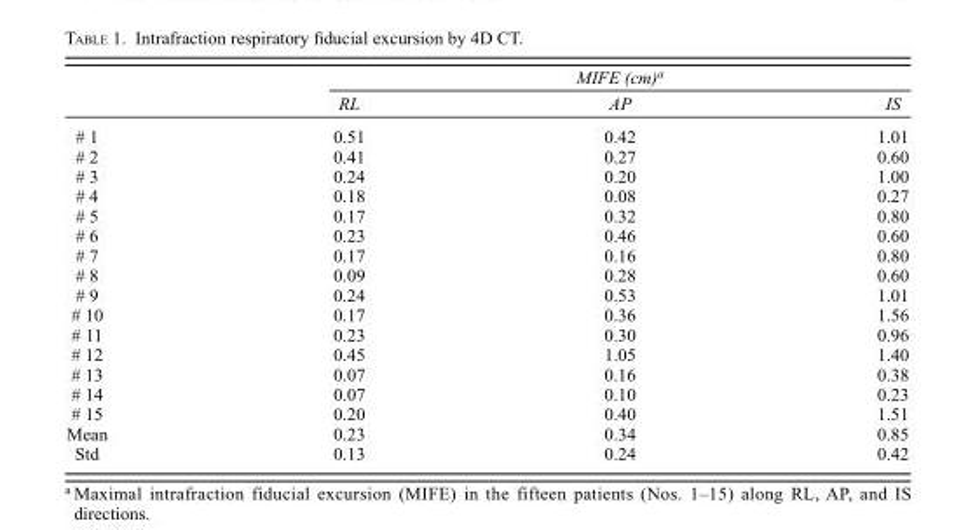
<table><thead><tr><td rowspan="2"></td><td colspan="3">MIFE (cm)<sup>a</sup></td></tr><tr><td>RL</td><td>AP</td><td>IS</td></tr></thead><tbody><tr><td># 1</td><td>0.51</td><td>0.42</td><td>1.01</td></tr><tr><td># 2</td><td>0.41</td><td>0.27</td><td>0.60</td></tr><tr><td># 3</td><td>0.24</td><td>0.20</td><td>1.00</td></tr><tr><td># 4</td><td>0.18</td><td>0.08</td><td>0.27</td></tr><tr><td># 5</td><td>0.17</td><td>0.32</td><td>0.80</td></tr><tr><td># 6</td><td>0.23</td><td>0.46</td><td>0.60</td></tr><tr><td># 7</td><td>0.17</td><td>0.16</td><td>0.80</td></tr><tr><td># 8</td><td>0.09</td><td>0.28</td><td>0.60</td></tr><tr><td># 9</td><td>0.24</td><td>0.53</td><td>1.01</td></tr><tr><td># 10</td><td>0.17</td><td>0.36</td><td>1.56</td></tr><tr><td># 11</td><td>0.23</td><td>0.30</td><td>0.96</td></tr><tr><td># 12</td><td>0.45</td><td>1.05</td><td>1.40</td></tr><tr><td># 13</td><td>0.07</td><td>0.16</td><td>0.38</td></tr><tr><td># 14</td><td>0.07</td><td>0.10</td><td>0.23</td></tr><tr><td># 15</td><td>0.20</td><td>0.40</td><td>1.51</td></tr><tr><td>Mean</td><td>0.23</td><td>0.34</td><td>0.85</td></tr><tr><td>Std</td><td>0.13</td><td>0.24</td><td>0.42</td></tr></tbody></table>